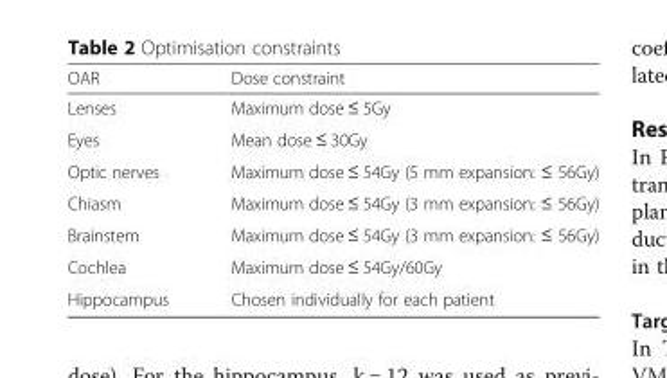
<table><thead><tr><td>OAR</td><td>Dose constraint</td></tr></thead><tbody><tr><td>Lenses</td><td>Maximum dose ≤ 5Gy</td></tr><tr><td>Eyes</td><td>Mean dose ≤ 30Gy</td></tr><tr><td>Optic nerves</td><td>Maximum dose ≤ 54Gy (5 mm expansion: ≤ 56Gy)</td></tr><tr><td>Chiasm</td><td>Maximum dose ≤ 54Gy (3 mm expansion: ≤ 56Gy)</td></tr><tr><td>Brainstem</td><td>Maximum dose ≤ 54Gy (3 mm expansion: ≤ 56Gy)</td></tr><tr><td>Cochlea</td><td>Maximum dose ≤ 54Gy/60Gy</td></tr><tr><td>Hippocampus</td><td>Chosen individually for each patient</td></tr></tbody></table>